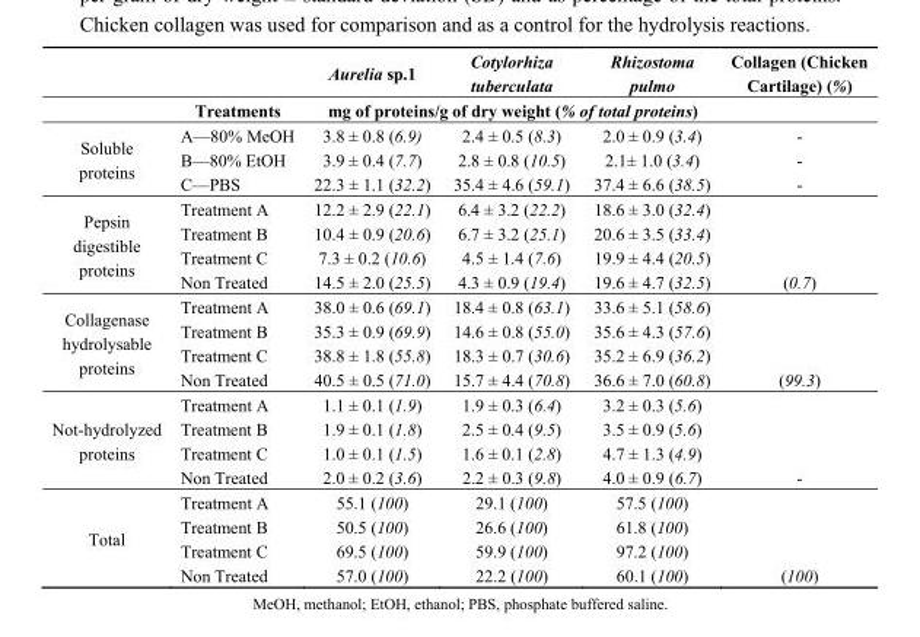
<table><thead><tr><td rowspan="2"></td><td rowspan="2">Treatments</td><td>Aurelia sp.1</td><td>Cotylorhiza tuberculata</td><td>Rhizostoma pulmo</td><td rowspan="2">Collagen (Chicken Cartilage) (%)</td></tr><tr><td colspan="3">mg of proteins/g of dry weight (% of total proteins)</td></tr></thead><tbody><tr><td>Soluble proteins</td><td>A—80% MeOH B—80% EtOH C—PBS</td><td>3.8 ± 0.8 (6.9) 3.9 ± 0.4 (7.7) 22.3 ± 1.1 (32.2)</td><td>2.4 ± 0.5 (8.3) 2.8 ± 0.8 (10.5) 35.4 ± 4.6 (59.1)</td><td>2.0 ± 0.9 (3.4) 2.1± 1.0 (3.4) 37.4 ± 6.6 (38.5)</td><td>- - -</td></tr><tr><td>Pepsin digestible proteins</td><td>Treatment A Treatment B Treatment C Non Treated</td><td>12.2 ± 2.9 (22.1) 10.4 ± 0.9 (20.6) 7.3 ± 0.2 (10.6) 14.5 ± 2.0 (25.5)</td><td>6.4 ± 3.2 (22.2) 6.7 ± 3.2 (25.1) 4.5 ± 1.4 (7.6) 4.3 ± 0.9 (19.4)</td><td>18.6 ± 3.0 (32.4) 20.6 ± 3.5 (33.4) 19.9 ± 4.4 (20.5) 19.6 ± 4.7 (32.5)</td><td>(0.7)</td></tr><tr><td>Collagenase hydrolysable proteins</td><td>Treatment A Treatment B Treatment C Non Treated</td><td>38.0 ± 0.6 (69.1) 35.3 ± 0.9 (69.9) 38.8 ± 1.8 (55.8) 40.5 ± 0.5 (71.0)</td><td>18.4 ± 0.8 (63.1) 14.6 ± 0.8 (55.0) 18.3 ± 0.7 (30.6) 15.7 ± 4.4 (70.8)</td><td>33.6 ± 5.1 (58.6) 35.6 ± 4.3 (57.6) 35.2 ± 6.9 (36.2) 36.6 ± 7.0 (60.8)</td><td>(99.3)</td></tr><tr><td>Not-hydrolyzed proteins</td><td>Treatment A Treatment B Treatment C Non Treated</td><td>1.1 ± 0.1 (1.9) 1.9 ± 0.1 (1.8) 1.0 ± 0.1 (1.5) 2.0 ± 0.2 (3.6)</td><td>1.9 ± 0.3 (6.4) 2.5 ± 0.4 (9.5) 1.6 ± 0.1 (2.8) 2.2 ± 0.3 (9.8)</td><td>3.2 ± 0.3 (5.6) 3.5 ± 0.9 (5.6) 4.7 ± 1.3 (4.9) 4.0 ± 0.9 (6.7)</td><td>-</td></tr><tr><td>Total</td><td>Treatment A Treatment B Treatment C Non Treated</td><td>55.1 (100) 50.5 (100) 69.5 (100) 57.0 (100)</td><td>29.1 (100) 26.6 (100) 59.9 (100) 22.2 (100)</td><td>57.5 (100) 61.8 (100) 97.2 (100) 60.1 (100)</td><td>(100)</td></tr></tbody></table>